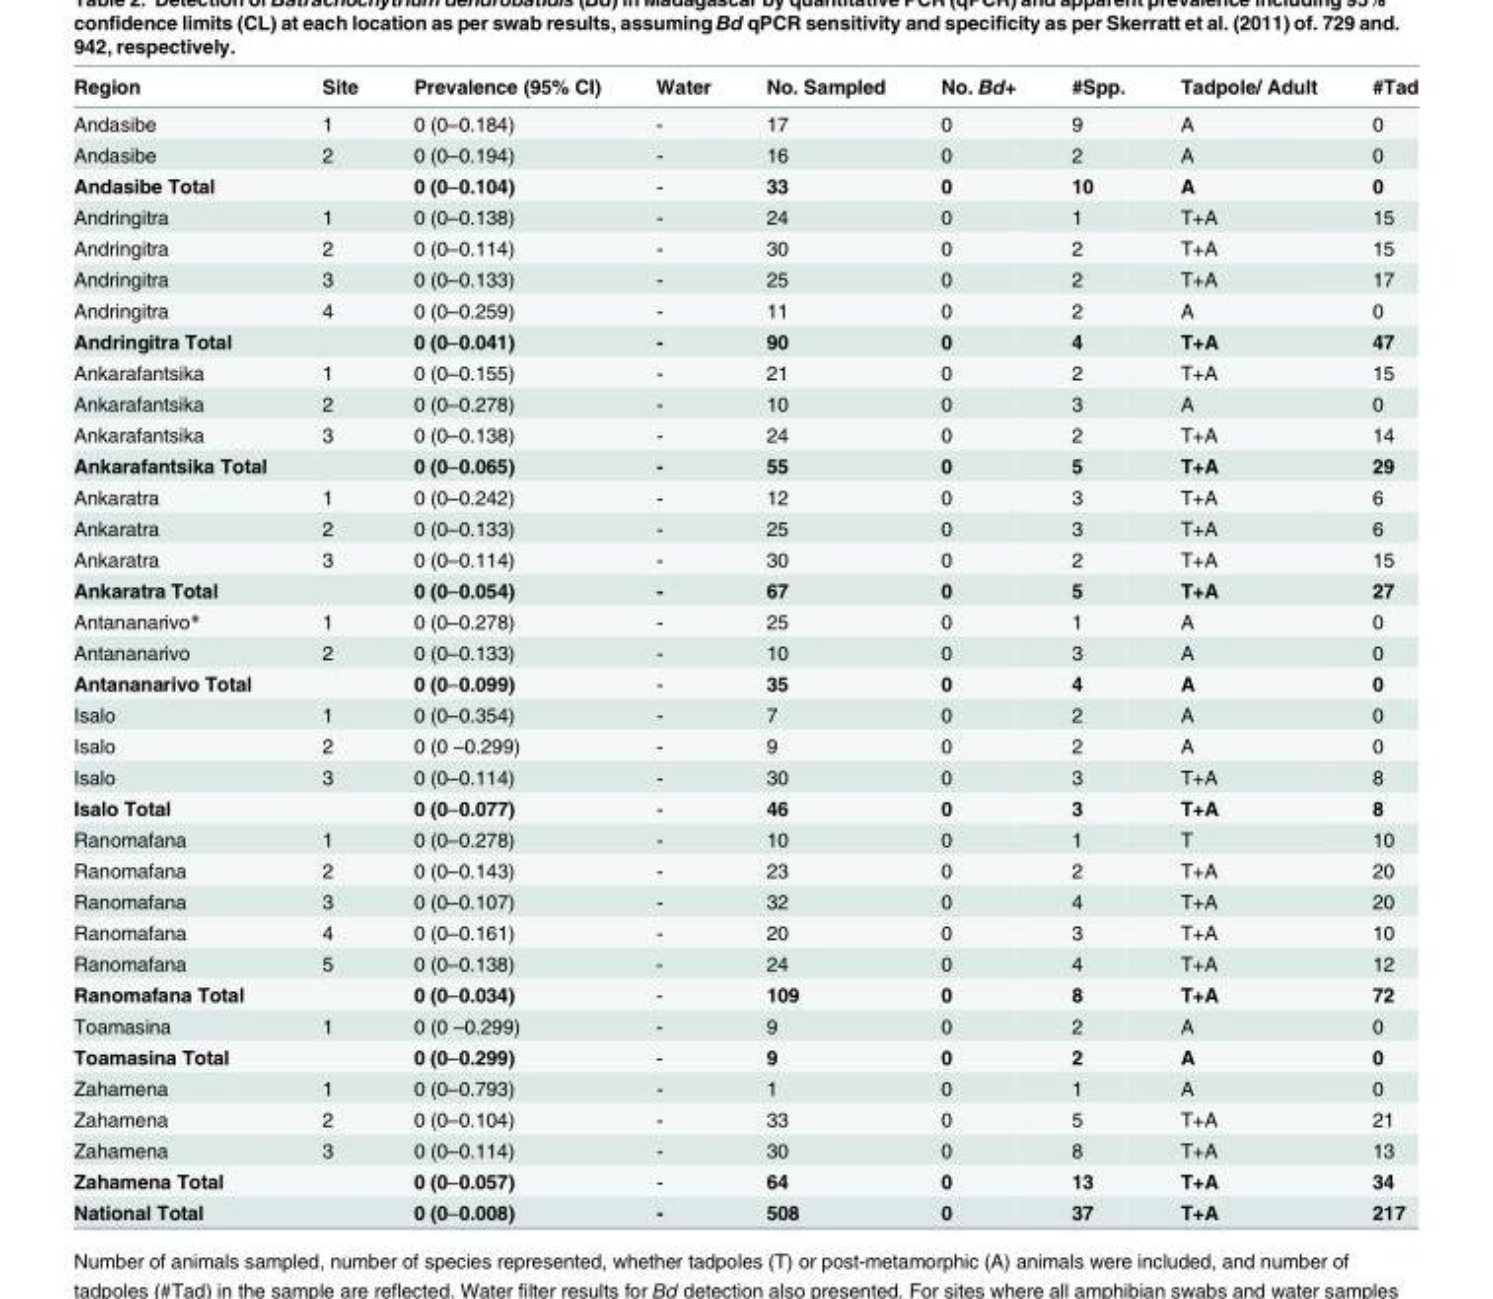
<table><thead><tr><td>Region</td><td>Site</td><td>Prevalence (95% CI)</td><td>Water</td><td>No. Sampled</td><td>No. Bd+</td><td>#Spp.</td><td>Tadpole/ Adult</td><td>#Tad</td></tr></thead><tbody><tr><td>Andasibe</td><td>1</td><td>0 (0–0.184)</td><td>-</td><td>17</td><td>0</td><td>9</td><td>A</td><td>0</td></tr><tr><td>Andasibe</td><td>2</td><td>0 (0–0.194)</td><td>-</td><td>16</td><td>0</td><td>2</td><td>A</td><td>0</td></tr><tr><td>Andasibe Total</td><td></td><td>0 (0–0.104)</td><td>-</td><td>33</td><td>0</td><td>10</td><td>A</td><td>0</td></tr><tr><td>Andringitra</td><td>1</td><td>0 (0–0.138)</td><td>-</td><td>24</td><td>0</td><td>1</td><td>T+A</td><td>15</td></tr><tr><td>Andringitra</td><td>2</td><td>0 (0–0.114)</td><td>-</td><td>30</td><td>0</td><td>2</td><td>T+A</td><td>15</td></tr><tr><td>Andringitra</td><td>3</td><td>0 (0–0.133)</td><td>-</td><td>25</td><td>0</td><td>2</td><td>T+A</td><td>17</td></tr><tr><td>Andringitra</td><td>4</td><td>0 (0–0.259)</td><td>-</td><td>11</td><td>0</td><td>2</td><td>A</td><td>0</td></tr><tr><td>Andringitra Total</td><td></td><td>0 (0–0.041)</td><td>-</td><td>90</td><td>0</td><td>4</td><td>T+A</td><td>47</td></tr><tr><td>Ankarafantsika</td><td>1</td><td>0 (0–0.155)</td><td>-</td><td>21</td><td>0</td><td>2</td><td>T+A</td><td>15</td></tr><tr><td>Ankarafantsika</td><td>2</td><td>0 (0–0.278)</td><td>-</td><td>10</td><td>0</td><td>3</td><td>A</td><td>0</td></tr><tr><td>Ankarafantsika</td><td>3</td><td>0 (0–0.138)</td><td>-</td><td>24</td><td>0</td><td>2</td><td>T+A</td><td>14</td></tr><tr><td>Ankarafantsika Total</td><td></td><td>0 (0–0.065)</td><td>-</td><td>55</td><td>0</td><td>5</td><td>T+A</td><td>29</td></tr><tr><td>Ankaratra</td><td>1</td><td>0 (0–0.242)</td><td>-</td><td>12</td><td>0</td><td>3</td><td>T+A</td><td>6</td></tr><tr><td>Ankaratra</td><td>2</td><td>0 (0–0.133)</td><td>-</td><td>25</td><td>0</td><td>3</td><td>T+A</td><td>6</td></tr><tr><td>Ankaratra</td><td>3</td><td>0 (0–0.114)</td><td>-</td><td>30</td><td>0</td><td>2</td><td>T+A</td><td>15</td></tr><tr><td>Ankaratra Total</td><td></td><td>0 (0–0.054)</td><td>-</td><td>67</td><td>0</td><td>5</td><td>T+A</td><td>27</td></tr><tr><td>Antananarivo*</td><td>1</td><td>0 (0–0.278)</td><td>-</td><td>25</td><td>0</td><td>1</td><td>A</td><td>0</td></tr><tr><td>Antananarivo</td><td>2</td><td>0 (0–0.133)</td><td>-</td><td>10</td><td>0</td><td>3</td><td>A</td><td>0</td></tr><tr><td>Antananarivo Total</td><td></td><td>0 (0–0.099)</td><td>-</td><td>35</td><td>0</td><td>4</td><td>A</td><td>0</td></tr><tr><td>Isalo</td><td>1</td><td>0 (0–0.354)</td><td>-</td><td>7</td><td>0</td><td>2</td><td>A</td><td>0</td></tr><tr><td>Isalo</td><td>2</td><td>0 (0 –0.299)</td><td>-</td><td>9</td><td>0</td><td>2</td><td>A</td><td>0</td></tr><tr><td>Isalo</td><td>3</td><td>0 (0–0.114)</td><td>-</td><td>30</td><td>0</td><td>3</td><td>T+A</td><td>8</td></tr><tr><td>Isalo Total</td><td></td><td>0 (0–0.077)</td><td>-</td><td>46</td><td>0</td><td>3</td><td>T+A</td><td>8</td></tr><tr><td>Ranomafana</td><td>1</td><td>0 (0–0.278)</td><td>-</td><td>10</td><td>0</td><td>1</td><td>T</td><td>10</td></tr><tr><td>Ranomafana</td><td>2</td><td>0 (0–0.143)</td><td>-</td><td>23</td><td>0</td><td>2</td><td>T+A</td><td>20</td></tr><tr><td>Ranomafana</td><td>3</td><td>0 (0–0.107)</td><td>-</td><td>32</td><td>0</td><td>4</td><td>T+A</td><td>20</td></tr><tr><td>Ranomafana</td><td>4</td><td>0 (0–0.161)</td><td>-</td><td>20</td><td>0</td><td>3</td><td>T+A</td><td>10</td></tr><tr><td>Ranomafana</td><td>5</td><td>0 (0–0.138)</td><td>-</td><td>24</td><td>0</td><td>4</td><td>T+A</td><td>12</td></tr><tr><td>Ranomafana Total</td><td></td><td>0 (0–0.034)</td><td>-</td><td>109</td><td>0</td><td>8</td><td>T+A</td><td>72</td></tr><tr><td>Toamasina</td><td>1</td><td>0 (0 –0.299)</td><td>-</td><td>9</td><td>0</td><td>2</td><td>A</td><td>0</td></tr><tr><td>Toamasina Total</td><td></td><td>0 (0–0.299)</td><td>-</td><td>9</td><td>0</td><td>2</td><td>A</td><td>0</td></tr><tr><td>Zahamena</td><td>1</td><td>0 (0–0.793)</td><td>-</td><td>1</td><td>0</td><td>1</td><td>A</td><td>0</td></tr><tr><td>Zahamena</td><td>2</td><td>0 (0–0.104)</td><td>-</td><td>33</td><td>0</td><td>5</td><td>T+A</td><td>21</td></tr><tr><td>Zahamena</td><td>3</td><td>0 (0–0.114)</td><td>-</td><td>30</td><td>0</td><td>8</td><td>T+A</td><td>13</td></tr><tr><td>Zahamena Total</td><td></td><td>0 (0–0.057)</td><td>-</td><td>64</td><td>0</td><td>13</td><td>T+A</td><td>34</td></tr><tr><td>National Total</td><td></td><td>0 (0–0.008)</td><td>-</td><td>508</td><td>0</td><td>37</td><td>T+A</td><td>217</td></tr></tbody></table>